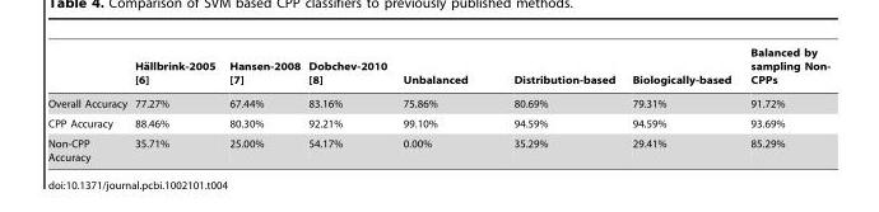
<table><thead><tr><td></td><td>Ha¨llbrink-2005 [6]</td><td>Hansen-2008 [7]</td><td>Dobchev-2010 [8]</td><td>Unbalanced</td><td>Distribution-based</td><td>Biologically-based</td><td>Balanced by sampling Non- CPPs</td></tr></thead><tbody><tr><td>Overall Accuracy</td><td>77.27%</td><td>67.44%</td><td>83.16%</td><td>75.86%</td><td>80.69%</td><td>79.31%</td><td>91.72%</td></tr><tr><td>CPP Accuracy</td><td>88.46%</td><td>80.30%</td><td>92.21%</td><td>99.10%</td><td>94.59%</td><td>94.59%</td><td>93.69%</td></tr><tr><td>Non-CPP Accuracy</td><td>35.71%</td><td>25.00%</td><td>54.17%</td><td>0.00%</td><td>35.29%</td><td>29.41%</td><td>85.29%</td></tr></tbody></table>